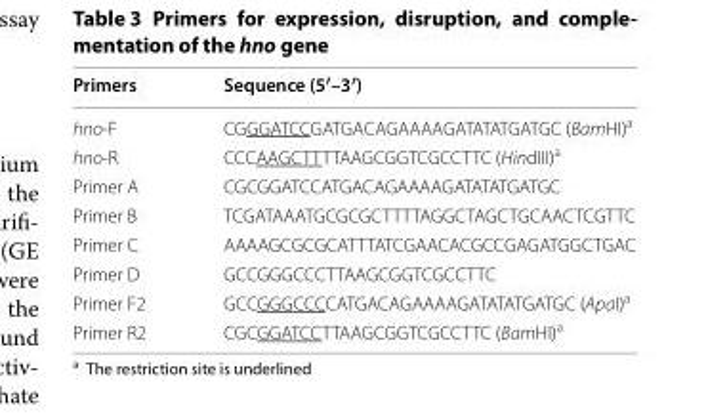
<table><thead><tr><td>Primers</td><td>Sequence (5′–3′)</td></tr></thead><tbody><tr><td>hno-F</td><td>CGGGATCCGATGACAGAAAAGATATATGATGC (BamHI)<sup>a</sup></td></tr><tr><td>hno-R</td><td>CCCAAGCTTTTAAGCGGTCGCCTTC (HindIII)<sup>a</sup></td></tr><tr><td>Primer A</td><td>CGCGGATCCATGACAGAAAAGATATATGATGC</td></tr><tr><td>Primer B</td><td>TCGATAAATGCGCGCTTTTAGGCTAGCTGCAACTCGTTC</td></tr><tr><td>Primer C</td><td>AAAAGCGCGCATTTATCGAACACGCCGAGATGGCTGAC</td></tr><tr><td>Primer D</td><td>GCCGGGCCCTTAAGCGGTCGCCTTC</td></tr><tr><td>Primer F2</td><td>GCCGGGCCCCATGACAGAAAAGATATATGATGC (ApaI)<sup>a</sup></td></tr><tr><td>Primer R2</td><td>CGCGGATCCTTAAGCGGTCGCCTTC (BamHI)<sup>a</sup></td></tr></tbody></table>